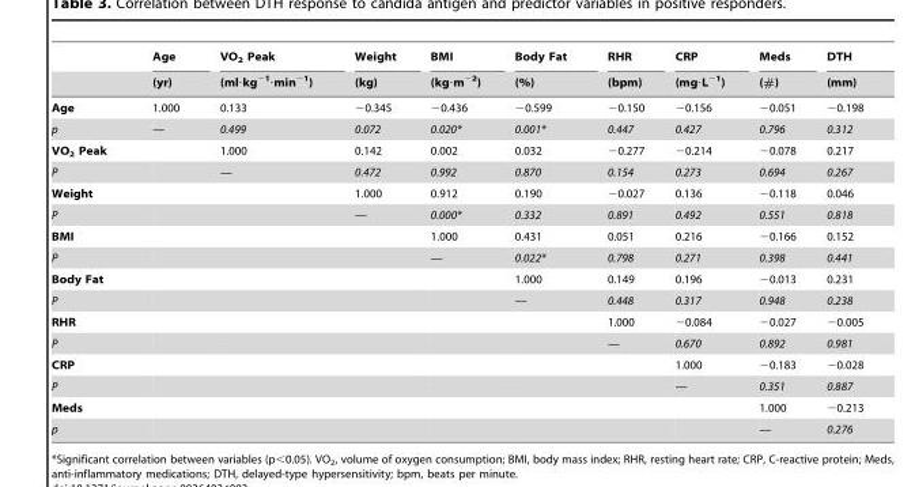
<table><thead><tr><td rowspan="2"></td><td rowspan="2">Age (yr)</td><td rowspan="2">VO2 Peak (ml·kg−1·min−1)</td><td rowspan="2">Weight (kg)</td><td rowspan="2">BMI (kg·m−2)</td><td rowspan="2">Body Fat (%)</td><td rowspan="2">RHR (bpm)</td><td rowspan="2">CRP (mg·L−1)</td><td rowspan="2">Meds (#)</td><td rowspan="2">DTH (mm)</td></tr><tr></tr></thead><tbody><tr><td>Age</td><td>1.000</td><td>0.133</td><td>−0.345</td><td>−0.436</td><td>−0.599</td><td>−0.150</td><td>−0.156</td><td>−0.051</td><td>−0.198</td></tr><tr><td>p</td><td>—</td><td>0.499</td><td>0.072</td><td>0.020*</td><td>0.001*</td><td>0.447</td><td>0.427</td><td>0.796</td><td>0.312</td></tr><tr><td>VO2 Peak</td><td></td><td>1.000</td><td>0.142</td><td>0.002</td><td>0.032</td><td>−0.277</td><td>−0.214</td><td>−0.078</td><td>0.217</td></tr><tr><td>P</td><td></td><td>—</td><td>0.472</td><td>0.992</td><td>0.870</td><td>0.154</td><td>0.273</td><td>0.694</td><td>0.267</td></tr><tr><td>Weight</td><td></td><td></td><td>1.000</td><td>0.912</td><td>0.190</td><td>−0.027</td><td>0.136</td><td>−0.118</td><td>0.046</td></tr><tr><td>P</td><td></td><td></td><td>—</td><td>0.000*</td><td>0.332</td><td>0.891</td><td>0.492</td><td>0.551</td><td>0.818</td></tr><tr><td>BMI</td><td></td><td></td><td></td><td>1.000</td><td>0.431</td><td>0.051</td><td>0.216</td><td>−0.166</td><td>0.152</td></tr><tr><td>P</td><td></td><td></td><td></td><td>—</td><td>0.022*</td><td>0.798</td><td>0.271</td><td>0.398</td><td>0.441</td></tr><tr><td>Body Fat</td><td></td><td></td><td></td><td></td><td>1.000</td><td>0.149</td><td>0.196</td><td>−0.013</td><td>0.231</td></tr><tr><td>P</td><td></td><td></td><td></td><td></td><td>—</td><td>0.448</td><td>0.317</td><td>0.948</td><td>0.238</td></tr><tr><td>RHR</td><td></td><td></td><td></td><td></td><td></td><td>1.000</td><td>−0.084</td><td>−0.027</td><td>−0.005</td></tr><tr><td>P</td><td></td><td></td><td></td><td></td><td></td><td>—</td><td>0.670</td><td>0.892</td><td>0.981</td></tr><tr><td>CRP</td><td></td><td></td><td></td><td></td><td></td><td></td><td>1.000</td><td>−0.183</td><td>−0.028</td></tr><tr><td>P</td><td></td><td></td><td></td><td></td><td></td><td></td><td>—</td><td>0.351</td><td>0.887</td></tr><tr><td>Meds</td><td></td><td></td><td></td><td></td><td></td><td></td><td></td><td>1.000</td><td>−0.213</td></tr><tr><td>p</td><td></td><td></td><td></td><td></td><td></td><td></td><td></td><td>—</td><td>0.276</td></tr></tbody></table>